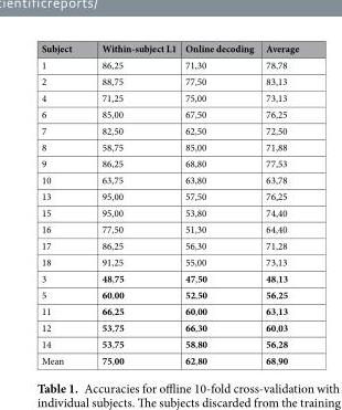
<table><thead><tr><td>Subject</td><td>Within-subject L1</td><td>Online decoding</td><td>Average</td></tr></thead><tbody><tr><td>1</td><td>86,25</td><td>71,30</td><td>78,78</td></tr><tr><td>2</td><td>88,75</td><td>77,50</td><td>83,13</td></tr><tr><td>4</td><td>71,25</td><td>75,00</td><td>73,13</td></tr><tr><td>6</td><td>85,00</td><td>67,50</td><td>76,25</td></tr><tr><td>7</td><td>82,50</td><td>62,50</td><td>72,50</td></tr><tr><td>8</td><td>58,75</td><td>85,00</td><td>71,88</td></tr><tr><td>9</td><td>86,25</td><td>68,80</td><td>77,53</td></tr><tr><td>10</td><td>63,75</td><td>63,80</td><td>63,78</td></tr><tr><td>13</td><td>95,00</td><td>57,50</td><td>76,25</td></tr><tr><td>15</td><td>95,00</td><td>53,80</td><td>74,40</td></tr><tr><td>16</td><td>77,50</td><td>51,30</td><td>64,40</td></tr><tr><td>17</td><td>86,25</td><td>56,30</td><td>71,28</td></tr><tr><td>18</td><td>91,25</td><td>55,00</td><td>73,13</td></tr><tr><td>3</td><td>48,75</td><td>47,50</td><td>48,13</td></tr><tr><td>5</td><td>60,00</td><td>52,50</td><td>56,25</td></tr><tr><td>11</td><td>66,25</td><td>60,00</td><td>63,13</td></tr><tr><td>12</td><td>53,75</td><td>66,30</td><td>60,03</td></tr><tr><td>14</td><td>53,75</td><td>58,80</td><td>56,28</td></tr><tr><td>Mean</td><td>75,00</td><td>62,80</td><td>68,90</td></tr></tbody></table>